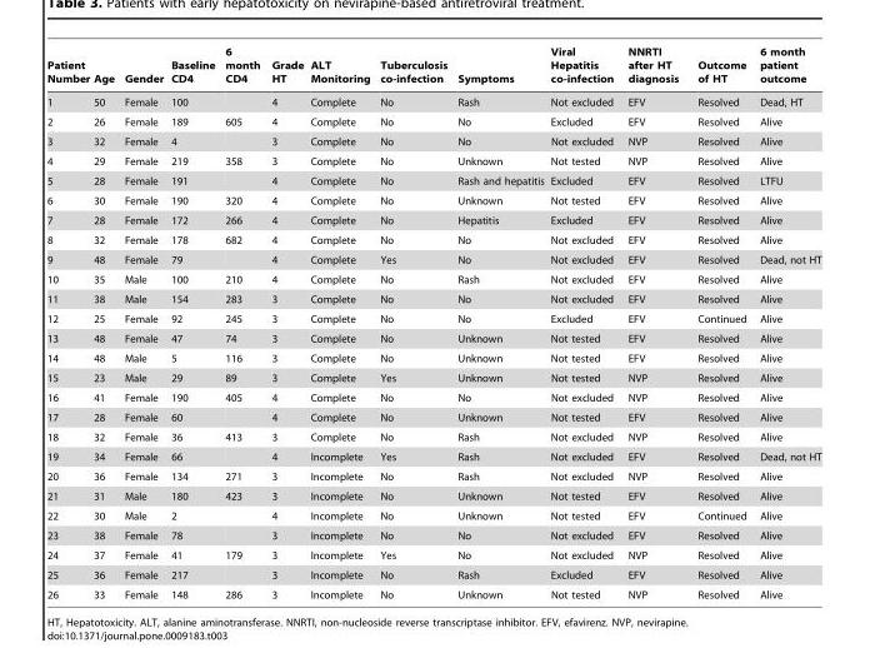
<table><thead><tr><td>Patient Number</td><td>Age</td><td>Gender</td><td>Baseline CD4</td><td>6 month CD4</td><td>Grade HT</td><td>ALT Monitoring</td><td>Tuberculosis co-infection</td><td>Symptoms</td><td>Viral Hepatitis co-infection</td><td>NNRTI after HT diagnosis</td><td>Outcome of HT</td><td>6 month patient outcome</td></tr></thead><tbody><tr><td>1</td><td>50</td><td>Female</td><td>100</td><td></td><td>4</td><td>Complete</td><td>No</td><td>Rash</td><td>Not excluded</td><td>EFV</td><td>Resolved</td><td>Dead, HT</td></tr><tr><td>2</td><td>26</td><td>Female</td><td>189</td><td>605</td><td>4</td><td>Complete</td><td>No</td><td>No</td><td>Excluded</td><td>EFV</td><td>Resolved</td><td>Alive</td></tr><tr><td>3</td><td>32</td><td>Female</td><td>4</td><td></td><td>3</td><td>Complete</td><td>No</td><td>No</td><td>Not excluded</td><td>NVP</td><td>Resolved</td><td>Alive</td></tr><tr><td>4</td><td>29</td><td>Female</td><td>219</td><td>358</td><td>3</td><td>Complete</td><td>No</td><td>Unknown</td><td>Not tested</td><td>NVP</td><td>Resolved</td><td>Alive</td></tr><tr><td>5</td><td>28</td><td>Female</td><td>191</td><td></td><td>4</td><td>Complete</td><td>No</td><td>Rash and hepatitis</td><td>Excluded</td><td>EFV</td><td>Resolved</td><td>LTFU</td></tr><tr><td>6</td><td>30</td><td>Female</td><td>190</td><td>320</td><td>4</td><td>Complete</td><td>No</td><td>Unknown</td><td>Not tested</td><td>EFV</td><td>Resolved</td><td>Alive</td></tr><tr><td>7</td><td>28</td><td>Female</td><td>172</td><td>266</td><td>4</td><td>Complete</td><td>No</td><td>Hepatitis</td><td>Excluded</td><td>EFV</td><td>Resolved</td><td>Alive</td></tr><tr><td>8</td><td>32</td><td>Female</td><td>178</td><td>682</td><td>4</td><td>Complete</td><td>No</td><td>No</td><td>Not excluded</td><td>EFV</td><td>Resolved</td><td>Alive</td></tr><tr><td>9</td><td>48</td><td>Female</td><td>79</td><td></td><td>4</td><td>Complete</td><td>Yes</td><td>No</td><td>Not excluded</td><td>EFV</td><td>Resolved</td><td>Dead, not HT</td></tr><tr><td>10</td><td>35</td><td>Male</td><td>100</td><td>210</td><td>4</td><td>Complete</td><td>No</td><td>Rash</td><td>Not excluded</td><td>EFV</td><td>Resolved</td><td>Alive</td></tr><tr><td>11</td><td>38</td><td>Male</td><td>154</td><td>283</td><td>3</td><td>Complete</td><td>No</td><td>No</td><td>Not excluded</td><td>EFV</td><td>Resolved</td><td>Alive</td></tr><tr><td>12</td><td>25</td><td>Female</td><td>92</td><td>245</td><td>3</td><td>Complete</td><td>No</td><td>No</td><td>Excluded</td><td>EFV</td><td>Continued</td><td>Alive</td></tr><tr><td>13</td><td>48</td><td>Female</td><td>47</td><td>74</td><td>3</td><td>Complete</td><td>No</td><td>Unknown</td><td>Not tested</td><td>EFV</td><td>Resolved</td><td>Alive</td></tr><tr><td>14</td><td>48</td><td>Male</td><td>5</td><td>116</td><td>3</td><td>Complete</td><td>No</td><td>Unknown</td><td>Not tested</td><td>EFV</td><td>Resolved</td><td>Alive</td></tr><tr><td>15</td><td>23</td><td>Male</td><td>29</td><td>89</td><td>3</td><td>Complete</td><td>Yes</td><td>Unknown</td><td>Not tested</td><td>NVP</td><td>Resolved</td><td>Alive</td></tr><tr><td>16</td><td>41</td><td>Female</td><td>190</td><td>405</td><td>4</td><td>Complete</td><td>No</td><td>No</td><td>Not excluded</td><td>NVP</td><td>Resolved</td><td>Alive</td></tr><tr><td>17</td><td>28</td><td>Female</td><td>60</td><td></td><td>4</td><td>Complete</td><td>No</td><td>Unknown</td><td>Not tested</td><td>EFV</td><td>Resolved</td><td>Alive</td></tr><tr><td>18</td><td>32</td><td>Female</td><td>36</td><td>413</td><td>3</td><td>Complete</td><td>No</td><td>Rash</td><td>Not excluded</td><td>NVP</td><td>Resolved</td><td>Alive</td></tr><tr><td>19</td><td>34</td><td>Female</td><td>66</td><td></td><td>4</td><td>Incomplete</td><td>Yes</td><td>Rash</td><td>Not excluded</td><td>EFV</td><td>Resolved</td><td>Dead, not HT</td></tr><tr><td>20</td><td>36</td><td>Female</td><td>134</td><td>271</td><td>3</td><td>Incomplete</td><td>No</td><td>Rash</td><td>Not excluded</td><td>NVP</td><td>Resolved</td><td>Alive</td></tr><tr><td>21</td><td>31</td><td>Male</td><td>180</td><td>423</td><td>3</td><td>Incomplete</td><td>No</td><td>Unknown</td><td>Not tested</td><td>EFV</td><td>Resolved</td><td>Alive</td></tr><tr><td>22</td><td>30</td><td>Male</td><td>2</td><td></td><td>4</td><td>Incomplete</td><td>No</td><td>Unknown</td><td>Not tested</td><td>EFV</td><td>Continued</td><td>Alive</td></tr><tr><td>23</td><td>38</td><td>Female</td><td>78</td><td></td><td>3</td><td>Incomplete</td><td>No</td><td>No</td><td>Not excluded</td><td>EFV</td><td>Resolved</td><td>Alive</td></tr><tr><td>24</td><td>37</td><td>Female</td><td>41</td><td>179</td><td>3</td><td>Incomplete</td><td>Yes</td><td>No</td><td>Not excluded</td><td>NVP</td><td>Resolved</td><td>Alive</td></tr><tr><td>25</td><td>36</td><td>Female</td><td>217</td><td></td><td>3</td><td>Incomplete</td><td>No</td><td>Rash</td><td>Excluded</td><td>EFV</td><td>Resolved</td><td>Alive</td></tr><tr><td>26</td><td>33</td><td>Female</td><td>148</td><td>286</td><td>3</td><td>Incomplete</td><td>No</td><td>Unknown</td><td>Not tested</td><td>NVP</td><td>Resolved</td><td>Alive</td></tr></tbody></table>